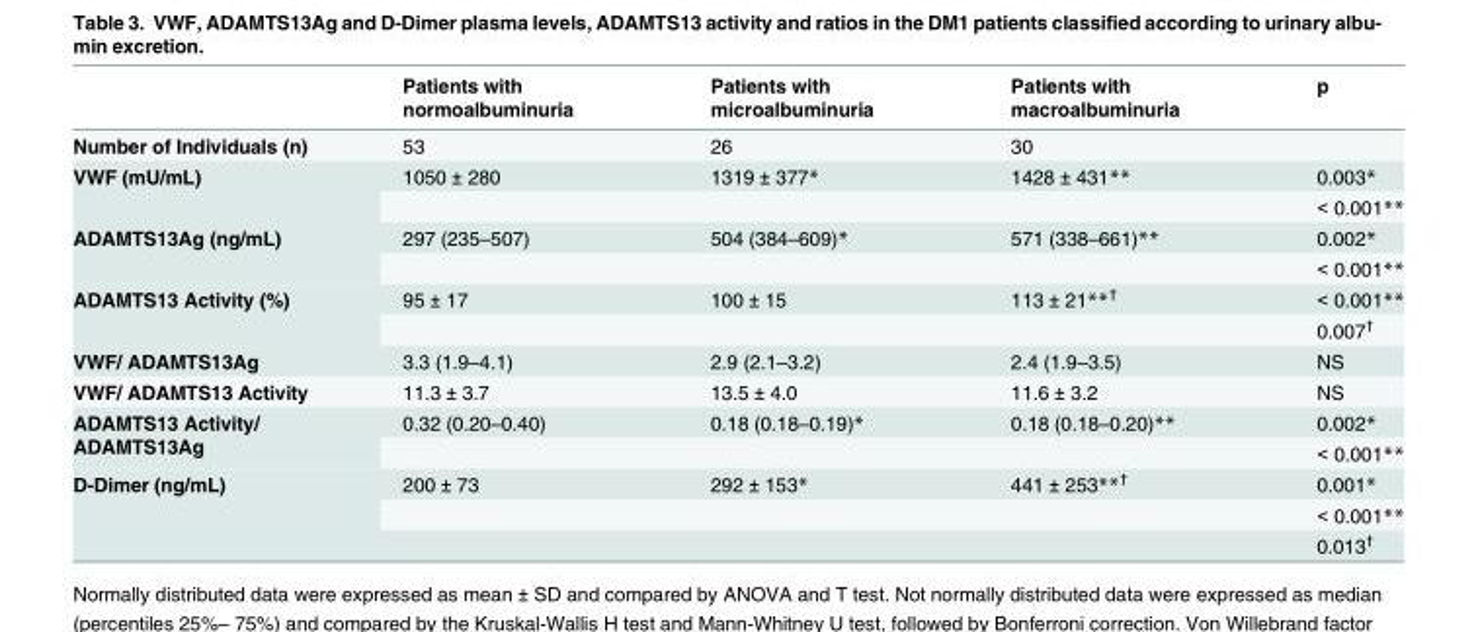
<table><thead><tr><td></td><td>Patients with normoalbuminuria</td><td>Patients with microalbuminuria</td><td>Patients with macroalbuminuria</td><td>p</td></tr></thead><tbody><tr><td>Number of Individuals (n)</td><td>53</td><td>26</td><td>30</td><td></td></tr><tr><td rowspan="2">VWF (mU/mL)</td><td>1050 ± 280</td><td>1319 ± 377*</td><td>1428 ± 431**</td><td>0.003*</td></tr><tr><td></td><td></td><td></td><td>&lt; 0.001**</td></tr><tr><td rowspan="2">ADAMTS13Ag (ng/mL)</td><td>297 (235–507)</td><td>504 (384–609)*</td><td>571 (338–661)**</td><td>0.002*</td></tr><tr><td></td><td></td><td></td><td>&lt; 0.001**</td></tr><tr><td rowspan="2">ADAMTS13 Activity (%)</td><td>95 ± 17</td><td>100 ± 15</td><td>113 ± 21**<sup>†</sup></td><td>&lt; 0.001**</td></tr><tr><td></td><td></td><td></td><td>0.007<sup>†</sup></td></tr><tr><td>VWF/ ADAMTS13Ag</td><td>3.3 (1.9–4.1)</td><td>2.9 (2.1–3.2)</td><td>2.4 (1.9–3.5)</td><td>NS</td></tr><tr><td>VWF/ ADAMTS13 Activity</td><td>11.3 ± 3.7</td><td>13.5 ± 4.0</td><td>11.6 ± 3.2</td><td>NS</td></tr><tr><td rowspan="2">ADAMTS13 Activity/ ADAMTS13Ag</td><td>0.32 (0.20–0.40)</td><td>0.18 (0.18–0.19)*</td><td>0.18 (0.18–0.20)**</td><td>0.002*</td></tr><tr><td></td><td></td><td></td><td>&lt; 0.001**</td></tr><tr><td rowspan="3">D-Dimer (ng/mL)</td><td>200 ± 73</td><td>292 ± 153*</td><td>441 ± 253**<sup>†</sup></td><td>0.001*</td></tr><tr><td></td><td></td><td></td><td>&lt; 0.001**</td></tr><tr><td></td><td></td><td></td><td>0.013<sup>†</sup></td></tr></tbody></table>